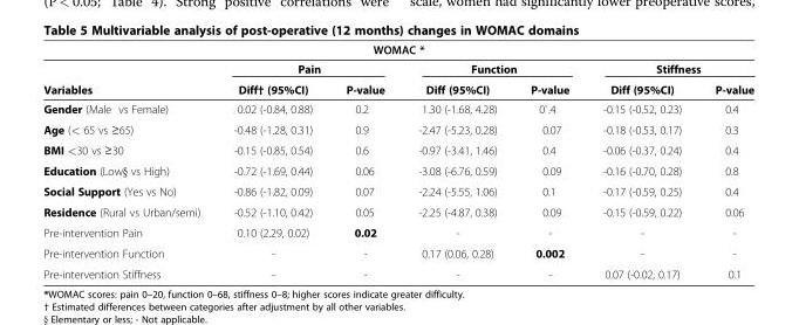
<table><thead><tr><td colspan="7">WOMAC *</td></tr><tr><td rowspan="2">Variables</td><td colspan="2">Pain</td><td colspan="2">Function</td><td colspan="2">Stiffness</td></tr><tr><td>Diff† (95%CI)</td><td>P-value</td><td>Diff (95%CI)</td><td>P-value</td><td>Diff (95%CI)</td><td>P-value</td></tr></thead><tbody><tr><td>Gender (Male vs Female)</td><td>0.02 (-0.84, 0.88)</td><td>0.2</td><td>1.30 (-1.68, 4.28)</td><td>0`.4</td><td>-0.15 (-0.52, 0.23)</td><td>0.4</td></tr><tr><td>Age (&lt; 65 vs ≥65)</td><td>-0.48 (-1.28, 0.31)</td><td>0.9</td><td>-2.47 (-5.23, 0.28)</td><td>0.07</td><td>-0.18 (-0.53, 0.17)</td><td>0.3</td></tr><tr><td>BMI &lt;30 vs ≥30</td><td>-0.15 (-0.85, 0.54)</td><td>0.6</td><td>-0.97 (-3.41, 1.46)</td><td>0.4</td><td>-0.06 (-0.37, 0.24)</td><td>0.4</td></tr><tr><td>Education (Low§ vs High)</td><td>-0.72 (-1.69, 0.44)</td><td>0.06</td><td>-3.08 (-6.76, 0.59)</td><td>0.09</td><td>-0.16 (-0.70, 0.28)</td><td>0.8</td></tr><tr><td>Social Support (Yes vs No)</td><td>-0.86 (-1.82, 0.09)</td><td>0.07</td><td>-2.24 (-5.55, 1.06)</td><td>0.1</td><td>-0.17 (-0.59, 0.25)</td><td>0.4</td></tr><tr><td>Residence (Rural vs Urban/semi)</td><td>-0.52 (-1.10, 0.42)</td><td>0.05</td><td>-2.25 (-4.87, 0.38)</td><td>0.09</td><td>-0.15 (-0.59, 0.22)</td><td>0.06</td></tr><tr><td>Pre-intervention Pain</td><td>0.10 (2.29, 0.02)</td><td>0.02</td><td>-</td><td>-</td><td>-</td><td>-</td></tr><tr><td>Pre-intervention Function</td><td>-</td><td>-</td><td>0.17 (0.06, 0.28)</td><td>0.002</td><td>-</td><td>-</td></tr><tr><td>Pre-intervention Stiffness</td><td>-</td><td>-</td><td>-</td><td>-</td><td>0.07 (-0.02, 0.17)</td><td>0.1</td></tr></tbody></table>